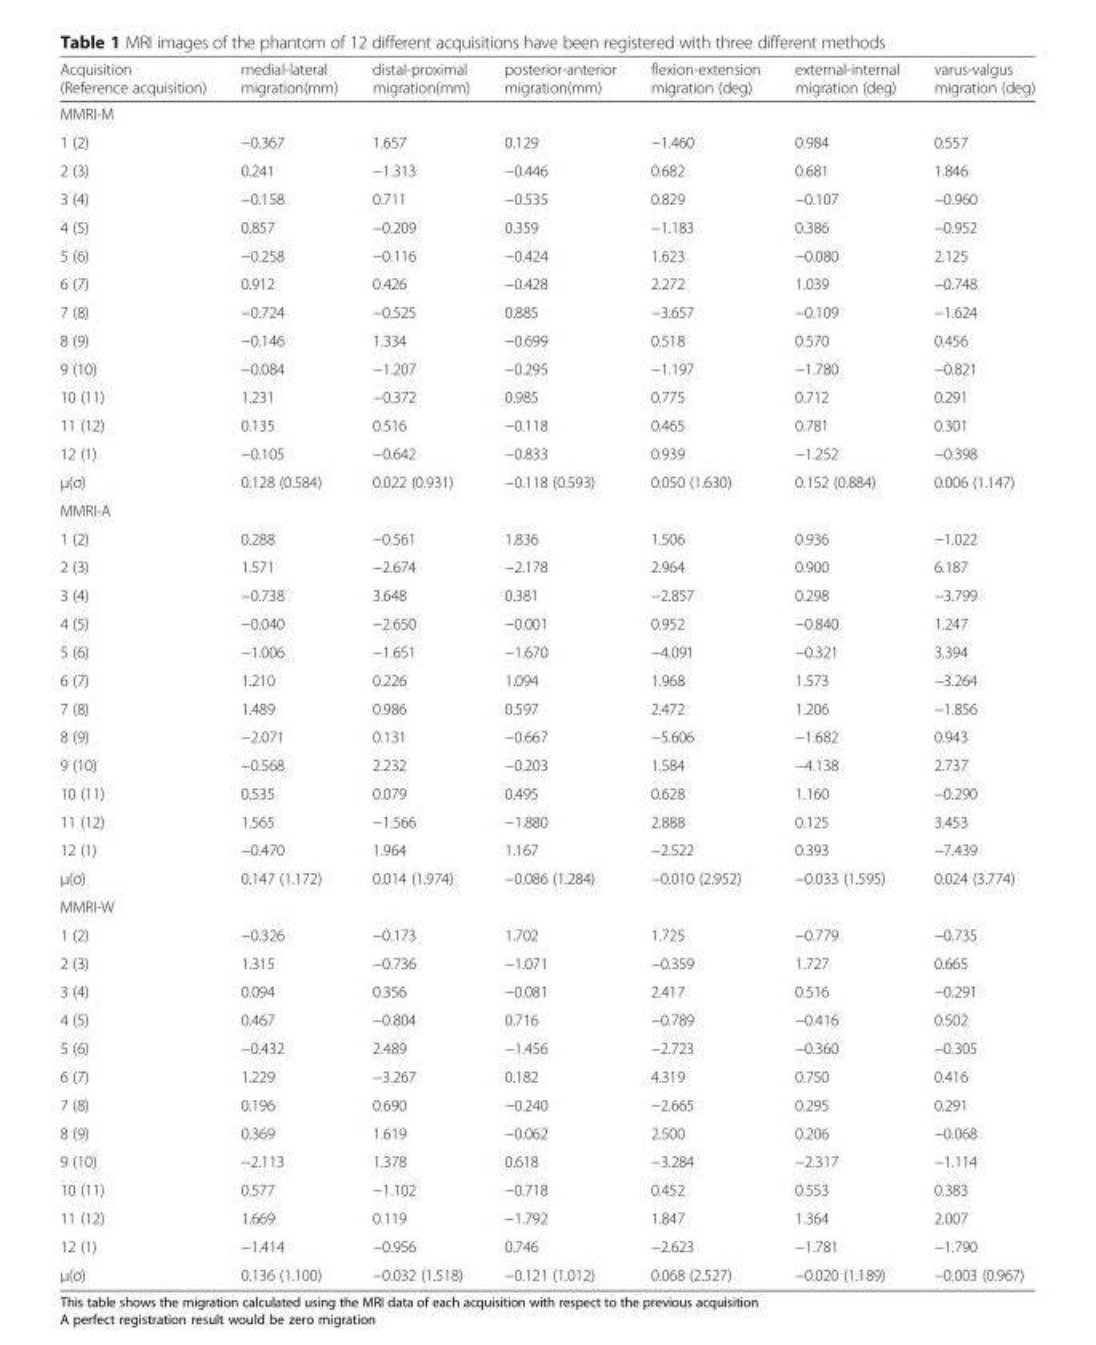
<table><thead><tr><td>Acquisition (Reference acquisition)</td><td>medial-lateral migration(mm)</td><td>distal-proximal migration(mm)</td><td>posterior-anterior migration(mm)</td><td>flexion-extension migration (deg)</td><td>external-internal migration (deg)</td><td>varus-valgus migration (deg)</td></tr></thead><tbody><tr><td colspan="7">MMRI-M</td></tr><tr><td>1 (2)</td><td>−0.367</td><td>1.657</td><td>0.129</td><td>−1.460</td><td>0.984</td><td>0.557</td></tr><tr><td>2 (3)</td><td>0.241</td><td>−1.313</td><td>−0.446</td><td>0.682</td><td>0.681</td><td>1.846</td></tr><tr><td>3 (4)</td><td>−0.158</td><td>0.711</td><td>−0.535</td><td>0.829</td><td>−0.107</td><td>−0.960</td></tr><tr><td>4 (5)</td><td>0.857</td><td>−0.209</td><td>0.359</td><td>−1.183</td><td>0.386</td><td>−0.952</td></tr><tr><td>5 (6)</td><td>−0.258</td><td>−0.116</td><td>−0.424</td><td>1.623</td><td>−0.080</td><td>2.125</td></tr><tr><td>6 (7)</td><td>0.912</td><td>0.426</td><td>−0.428</td><td>2.272</td><td>1.039</td><td>−0.748</td></tr><tr><td>7 (8)</td><td>−0.724</td><td>−0.525</td><td>0.885</td><td>−3.657</td><td>−0.109</td><td>−1.624</td></tr><tr><td>8 (9)</td><td>−0.146</td><td>1.334</td><td>−0.699</td><td>0.518</td><td>0.570</td><td>0.456</td></tr><tr><td>9 (10)</td><td>−0.084</td><td>−1.207</td><td>−0.295</td><td>−1.197</td><td>−1.780</td><td>−0.821</td></tr><tr><td>10 (11)</td><td>1.231</td><td>−0.372</td><td>0.985</td><td>0.775</td><td>0.712</td><td>0.291</td></tr><tr><td>11 (12)</td><td>0.135</td><td>0.516</td><td>−0.118</td><td>0.465</td><td>0.781</td><td>0.301</td></tr><tr><td>12 (1)</td><td>−0.105</td><td>−0.642</td><td>−0.833</td><td>0.939</td><td>−1.252</td><td>−0.398</td></tr><tr><td>μ(σ)</td><td>0.128 (0.584)</td><td>0.022 (0.931)</td><td>−0.118 (0.593)</td><td>0.050 (1.630)</td><td>0.152 (0.884)</td><td>0.006 (1.147)</td></tr><tr><td colspan="7">MMRI-A</td></tr><tr><td>1 (2)</td><td>0.288</td><td>−0.561</td><td>1.836</td><td>1.506</td><td>0.936</td><td>−1.022</td></tr><tr><td>2 (3)</td><td>1.571</td><td>−2.674</td><td>−2.178</td><td>2.964</td><td>0.900</td><td>6.187</td></tr><tr><td>3 (4)</td><td>−0.738</td><td>3.648</td><td>0.381</td><td>−2.857</td><td>0.298</td><td>−3.799</td></tr><tr><td>4 (5)</td><td>−0.040</td><td>−2.650</td><td>−0.001</td><td>0.952</td><td>−0.840</td><td>1.247</td></tr><tr><td>5 (6)</td><td>−1.006</td><td>−1.651</td><td>−1.670</td><td>−4.091</td><td>−0.321</td><td>3.394</td></tr><tr><td>6 (7)</td><td>1.210</td><td>0.226</td><td>1.094</td><td>1.968</td><td>1.573</td><td>−3.264</td></tr><tr><td>7 (8)</td><td>1.489</td><td>0.986</td><td>0.597</td><td>2.472</td><td>1.206</td><td>−1.856</td></tr><tr><td>8 (9)</td><td>−2.071</td><td>0.131</td><td>−0.667</td><td>−5.606</td><td>−1.682</td><td>0.943</td></tr><tr><td>9 (10)</td><td>−0.568</td><td>2.232</td><td>−0.203</td><td>1.584</td><td>−4.138</td><td>2.737</td></tr><tr><td>10 (11)</td><td>0.535</td><td>0.079</td><td>0.495</td><td>0.628</td><td>1.160</td><td>−0.290</td></tr><tr><td>11 (12)</td><td>1.565</td><td>−1.566</td><td>−1.880</td><td>2.888</td><td>0.125</td><td>3.453</td></tr><tr><td>12 (1)</td><td>−0.470</td><td>1.964</td><td>1.167</td><td>−2.522</td><td>0.393</td><td>−7.439</td></tr><tr><td>μ(σ)</td><td>0.147 (1.172)</td><td>0.014 (1.974)</td><td>−0.086 (1.284)</td><td>−0.010 (2.952)</td><td>−0.033 (1.595)</td><td>0.024 (3.774)</td></tr><tr><td colspan="7">MMRI-W</td></tr><tr><td>1 (2)</td><td>−0.326</td><td>−0.173</td><td>1.702</td><td>1.725</td><td>−0.779</td><td>−0.735</td></tr><tr><td>2 (3)</td><td>1.315</td><td>−0.736</td><td>−1.071</td><td>−0.359</td><td>1.727</td><td>0.665</td></tr><tr><td>3 (4)</td><td>0.094</td><td>0.356</td><td>−0.081</td><td>2.417</td><td>0.516</td><td>−0.291</td></tr><tr><td>4 (5)</td><td>0.467</td><td>−0.804</td><td>0.716</td><td>−0.789</td><td>−0.416</td><td>0.502</td></tr><tr><td>5 (6)</td><td>−0.432</td><td>2.489</td><td>−1.456</td><td>−2.723</td><td>−0.360</td><td>−0.305</td></tr><tr><td>6 (7)</td><td>1.229</td><td>−3.267</td><td>0.182</td><td>4.319</td><td>0.750</td><td>0.416</td></tr><tr><td>7 (8)</td><td>0.196</td><td>0.690</td><td>−0.240</td><td>−2.665</td><td>0.295</td><td>0.291</td></tr><tr><td>8 (9)</td><td>0.369</td><td>1.619</td><td>−0.062</td><td>2.500</td><td>0.206</td><td>−0.068</td></tr><tr><td>9 (10)</td><td>−2.113</td><td>1.378</td><td>0.618</td><td>−3.284</td><td>−2.317</td><td>−1.114</td></tr><tr><td>10 (11)</td><td>0.577</td><td>−1.102</td><td>−0.718</td><td>0.452</td><td>0.553</td><td>0.383</td></tr><tr><td>11 (12)</td><td>1.669</td><td>0.119</td><td>−1.792</td><td>1.847</td><td>1.364</td><td>2.007</td></tr><tr><td>12 (1)</td><td>−1.414</td><td>−0.956</td><td>0.746</td><td>−2.623</td><td>−1.781</td><td>−1.790</td></tr><tr><td>μ(σ)</td><td>0.136 (1.100)</td><td>−0.032 (1.518)</td><td>−0.121 (1.012)</td><td>0.068 (2.527)</td><td>−0.020 (1.189)</td><td>−0.003 (0.967)</td></tr></tbody></table>